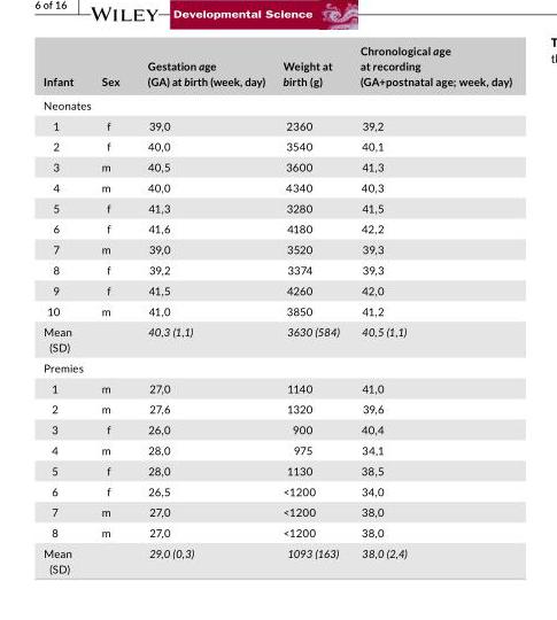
<table><thead><tr><td>Infant</td><td>Sex</td><td>Gestation age (GA) at birth (week, day)</td><td>Weight at birth (g)</td><td>Chronological age at recording (GA+postnatal age; week, day)</td></tr></thead><tbody><tr><td colspan="5">Neonates</td></tr><tr><td>1</td><td>f</td><td>39,0</td><td>2360</td><td>39,2</td></tr><tr><td>2</td><td>f</td><td>40,0</td><td>3540</td><td>40,1</td></tr><tr><td>3</td><td>m</td><td>40,5</td><td>3600</td><td>41,3</td></tr><tr><td>4</td><td>m</td><td>40,0</td><td>4340</td><td>40,3</td></tr><tr><td>5</td><td>f</td><td>41,3</td><td>3280</td><td>41,5</td></tr><tr><td>6</td><td>f</td><td>41,6</td><td>4180</td><td>42,2</td></tr><tr><td>7</td><td>m</td><td>39,0</td><td>3520</td><td>39,3</td></tr><tr><td>8</td><td>f</td><td>39,2</td><td>3374</td><td>39,3</td></tr><tr><td>9</td><td>f</td><td>41,5</td><td>4260</td><td>42,0</td></tr><tr><td>10</td><td>m</td><td>41,0</td><td>3850</td><td>41,2</td></tr><tr><td>Mean (SD)</td><td></td><td>40,3 (1,1)</td><td>3630 (584)</td><td>40,5 (1,1)</td></tr><tr><td colspan="5">Premies</td></tr><tr><td>1</td><td>m</td><td>27,0</td><td>1140</td><td>41,0</td></tr><tr><td>2</td><td>m</td><td>27,6</td><td>1320</td><td>39,6</td></tr><tr><td>3</td><td>f</td><td>26,0</td><td>900</td><td>40,4</td></tr><tr><td>4</td><td>m</td><td>28,0</td><td>975</td><td>34,1</td></tr><tr><td>5</td><td>f</td><td>28,0</td><td>1130</td><td>38,5</td></tr><tr><td>6</td><td>f</td><td>26,5</td><td>&lt;1200</td><td>34,0</td></tr><tr><td>7</td><td>m</td><td>27,0</td><td>&lt;1200</td><td>38,0</td></tr><tr><td>8</td><td>m</td><td>27,0</td><td>&lt;1200</td><td>38,0</td></tr><tr><td>Mean (SD)</td><td></td><td>29,0 (0,3)</td><td>1093 (163)</td><td>38,0 (2,4)</td></tr></tbody></table>